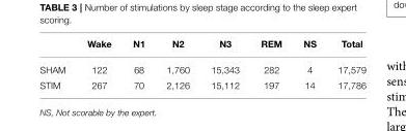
<table><thead><tr><td></td><td>Wake</td><td>N1</td><td>N2</td><td>N3</td><td>REM</td><td>NS</td><td>Total</td></tr></thead><tbody><tr><td>SHAM</td><td>122</td><td>68</td><td>1,760</td><td>15,343</td><td>282</td><td>4</td><td>17,579</td></tr><tr><td>STIM</td><td>267</td><td>70</td><td>2,126</td><td>15,112</td><td>197</td><td>14</td><td>17,786</td></tr></tbody></table>